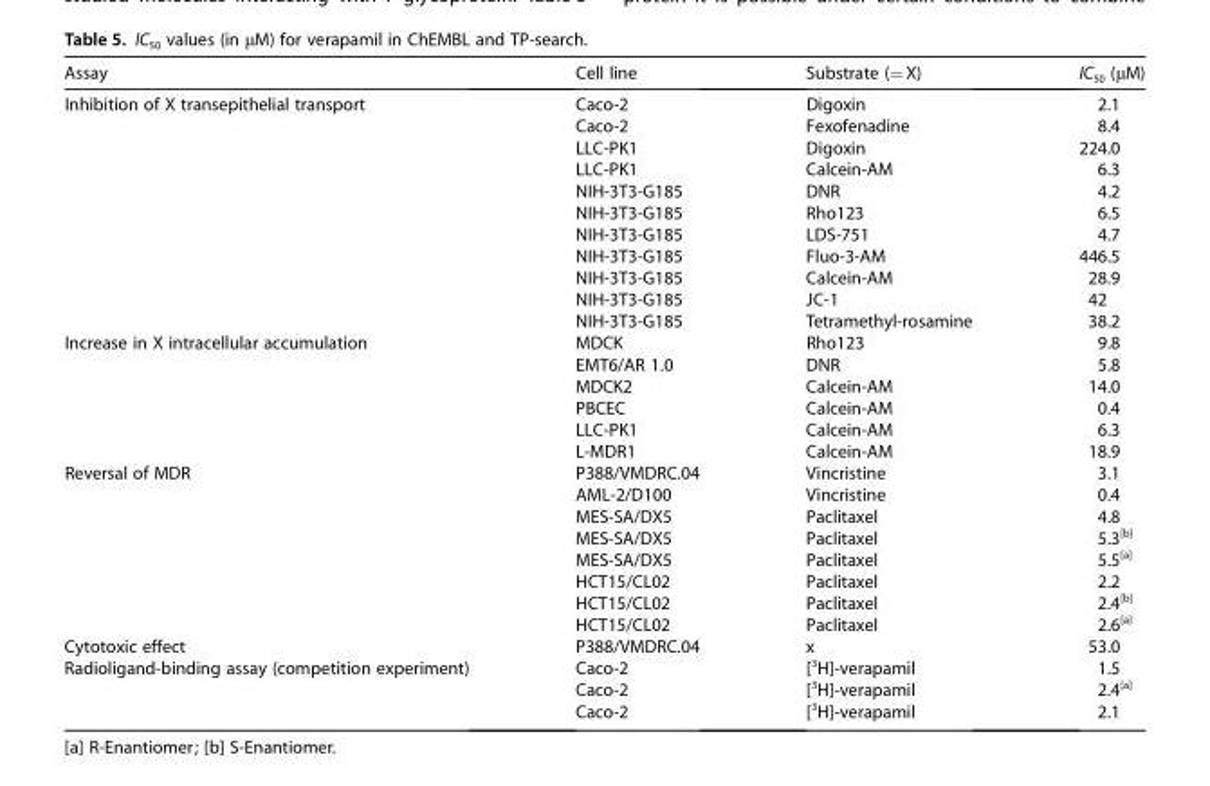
<table><thead><tr><td>Assay</td><td>Cell line</td><td>Substrate (=X)</td><td>IC<sub>50</sub> (μM)</td></tr></thead><tbody><tr><td rowspan="11">Inhibition of X transepithelial transport</td><td>Caco-2</td><td>Digoxin</td><td>2.1</td></tr><tr><td>Caco-2</td><td>Fexofenadine</td><td>8.4</td></tr><tr><td>LLC-PK1</td><td>Digoxin</td><td>224.0</td></tr><tr><td>LLC-PK1</td><td>Calcein-AM</td><td>6.3</td></tr><tr><td>NIH-3T3-G185</td><td>DNR</td><td>4.2</td></tr><tr><td>NIH-3T3-G185</td><td>Rho123</td><td>6.5</td></tr><tr><td>NIH-3T3-G185</td><td>LDS-751</td><td>4.7</td></tr><tr><td>NIH-3T3-G185</td><td>Fluo-3-AM</td><td>446.5</td></tr><tr><td>NIH-3T3-G185</td><td>Calcein-AM</td><td>28.9</td></tr><tr><td>NIH-3T3-G185</td><td>JC-1</td><td>42</td></tr><tr><td>NIH-3T3-G185</td><td>Tetramethyl-rosamine</td><td>38.2</td></tr><tr><td rowspan="6">Increase in X intracellular accumulation</td><td>MDCK</td><td>Rho123</td><td>9.8</td></tr><tr><td>EMT6/AR 1.0</td><td>DNR</td><td>5.8</td></tr><tr><td>MDCK2</td><td>Calcein-AM</td><td>14.0</td></tr><tr><td>PBCEC</td><td>Calcein-AM</td><td>0.4</td></tr><tr><td>LLC-PK1</td><td>Calcein-AM</td><td>6.3</td></tr><tr><td>L-MDR1</td><td>Calcein-AM</td><td>18.9</td></tr><tr><td rowspan="8">Reversal of MDR</td><td>P388/VMDRC.04</td><td>Vincristine</td><td>3.1</td></tr><tr><td>AML-2/D100</td><td>Vincristine</td><td>0.4</td></tr><tr><td>MES-SA/DX5</td><td>Paclitaxel</td><td>4.8</td></tr><tr><td>MES-SA/DX5</td><td>Paclitaxel</td><td>5.3<sup>[b]</sup></td></tr><tr><td>MES-SA/DX5</td><td>Paclitaxel</td><td>5.5<sup>[a]</sup></td></tr><tr><td>HCT15/CL02</td><td>Paclitaxel</td><td>2.2</td></tr><tr><td>HCT15/CL02</td><td>Paclitaxel</td><td>2.4<sup>[b]</sup></td></tr><tr><td>HCT15/CL02</td><td>Paclitaxel</td><td>2.6<sup>[a]</sup></td></tr><tr><td>Cytotoxic effect</td><td>P388/VMDRC.04</td><td>x</td><td>53.0</td></tr><tr><td rowspan="3">Radioligand-binding assay (competition experiment)</td><td>Caco-2</td><td>[<sup>3</sup>H]-verapamil</td><td>1.5</td></tr><tr><td>Caco-2</td><td>[<sup>3</sup>H]-verapamil</td><td>2.4<sup>[a]</sup></td></tr><tr><td>Caco-2</td><td>[<sup>3</sup>H]-verapamil</td><td>2.1</td></tr></tbody></table>